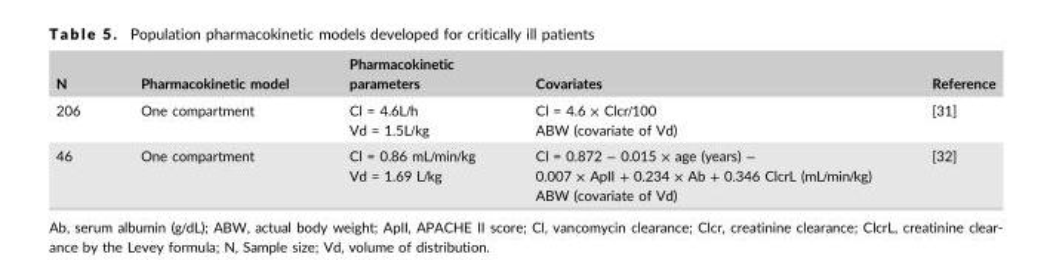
<table><thead><tr><td>N</td><td>Pharmacokinetic model</td><td>Pharmacokinetic parameters</td><td>Covariates</td><td>Reference</td></tr></thead><tbody><tr><td>206</td><td>One compartment</td><td>Cl = 4.6L/h Vd = 1.5L/kg</td><td>Cl = 4.6 × Clcr/100 ABW (covariate of Vd)</td><td>[31]</td></tr><tr><td>46</td><td>One compartment</td><td>Cl = 0.86 mL/min/kg Vd = 1.69 L/kg</td><td>Cl = 0.872 − 0.015 × age (years) − 0.007 × ApII + 0.234 × Ab + 0.346 ClcrL (mL/min/kg) ABW (covariate of Vd)</td><td>[32]</td></tr></tbody></table>